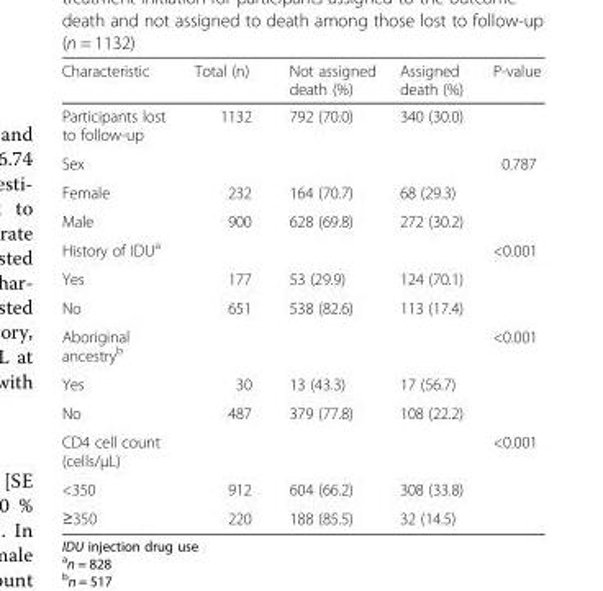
<table><thead><tr><td>Characteristic</td><td>Total (n)</td><td>Not assigned death (%)</td><td>Assigned death (%)</td><td>P-value</td></tr></thead><tbody><tr><td>Participants lost to follow-up</td><td>1132</td><td>792 (70.0)</td><td>340 (30.0)</td><td></td></tr><tr><td>Sex</td><td></td><td></td><td></td><td>0.787</td></tr><tr><td>Female</td><td>232</td><td>164 (70.7)</td><td>68 (29.3)</td><td></td></tr><tr><td>Male</td><td>900</td><td>628 (69.8)</td><td>272 (30.2)</td><td></td></tr><tr><td>History of IDU<sup>a</sup></td><td></td><td></td><td></td><td>&lt;0.001</td></tr><tr><td>Yes</td><td>177</td><td>53 (29.9)</td><td>124 (70.1)</td><td></td></tr><tr><td>No</td><td>651</td><td>538 (82.6)</td><td>113 (17.4)</td><td></td></tr><tr><td>Aboriginal ancestry<sup>b</sup></td><td></td><td></td><td></td><td>&lt;0.001</td></tr><tr><td>Yes</td><td>30</td><td>13 (43.3)</td><td>17 (56.7)</td><td></td></tr><tr><td>No</td><td>487</td><td>379 (77.8)</td><td>108 (22.2)</td><td></td></tr><tr><td>CD4 cell count (cells/μL)</td><td></td><td></td><td></td><td>&lt;0.001</td></tr><tr><td>&lt;350</td><td>912</td><td>604 (66.2)</td><td>308 (33.8)</td><td></td></tr><tr><td>≥350</td><td>220</td><td>188 (85.5)</td><td>32 (14.5)</td><td></td></tr></tbody></table>